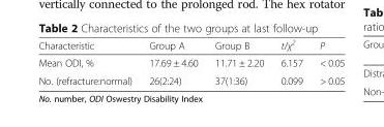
<table><thead><tr><td>Characteristic</td><td>Group A</td><td>Group B</td><td>t/χ<sup>2</sup></td><td>P</td></tr></thead><tbody><tr><td>Mean ODI, %</td><td>17.69 ± 4.60</td><td>11.71 ± 2.20</td><td>6.157</td><td>&lt; 0.05</td></tr><tr><td>No. (refracture:normal)</td><td>26(2:24)</td><td>37(1:36)</td><td>0.099</td><td>&gt; 0.05</td></tr></tbody></table>